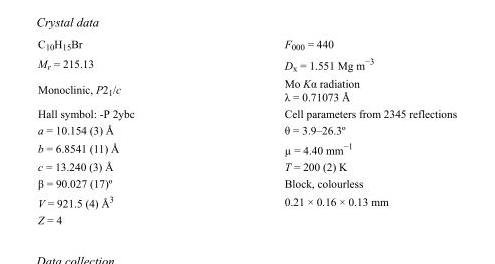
<table><tbody><tr><td>C<sub>10</sub>H<sub>15</sub>Br</td><td>F000 = 440</td></tr><tr><td>M<sub>r</sub> = 215.13</td><td>D<sub>x</sub> = 1.551 Mg m<sup>−3</sup></td></tr><tr><td>Monoclinic, P2<sub>1</sub>/c</td><td>Mo Kα radiation λ = 0.71073 Å</td></tr><tr><td>Hall symbol: -P 2ybc</td><td>Cell parameters from 2345 reflections</td></tr><tr><td>a = 10.154 (3) Å</td><td>θ = 3.9–26.3º</td></tr><tr><td>b = 6.8541 (11) Å</td><td>µ = 4.40 mm−1</td></tr><tr><td>c = 13.240 (3) Å</td><td>T = 200 (2) K</td></tr><tr><td>β = 90.027 (17)º</td><td>Block, colourless</td></tr><tr><td>V = 921.5 (4) Å<sup>3</sup></td><td>0.21 × 0.16 × 0.13 mm</td></tr><tr><td>Z = 4</td><td></td></tr></tbody></table>